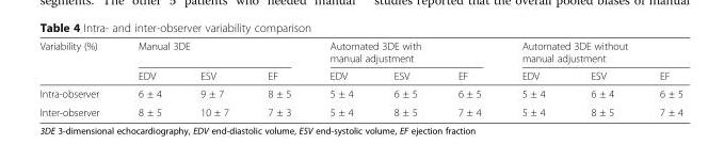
<table><thead><tr><td rowspan="2">Variability (%)</td><td colspan="3">Manual 3DE</td><td colspan="3">Automated 3DE with manual adjustment</td><td colspan="3">Automated 3DE without manual adjustment</td></tr><tr><td>EDV</td><td>ESV</td><td>EF</td><td>EDV</td><td>ESV</td><td>EF</td><td>EDV</td><td>ESV</td><td>EF</td></tr></thead><tbody><tr><td>Intra-observer</td><td>6 ± 4</td><td>9 ± 7</td><td>8 ± 5</td><td>5 ± 4</td><td>6 ± 5</td><td>6 ± 5</td><td>5 ± 4</td><td>6 ± 4</td><td>6 ± 5</td></tr><tr><td>Inter-observer</td><td>8 ± 5</td><td>10 ± 7</td><td>7 ± 3</td><td>5 ± 4</td><td>8 ± 5</td><td>7 ± 4</td><td>5 ± 4</td><td>8 ± 5</td><td>7 ± 4</td></tr></tbody></table>